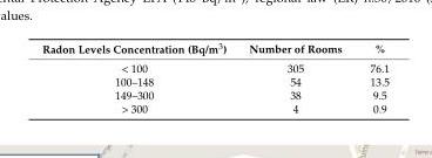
<table><thead><tr><td>Radon Levels Concentration (Bq/m<sup>3</sup>)</td><td>Number of Rooms</td><td>%</td></tr></thead><tbody><tr><td>&lt; 100</td><td>305</td><td>76.1</td></tr><tr><td>100–148</td><td>54</td><td>13.5</td></tr><tr><td>149–300</td><td>38</td><td>9.5</td></tr><tr><td>&gt; 300</td><td>4</td><td>0.9</td></tr></tbody></table>